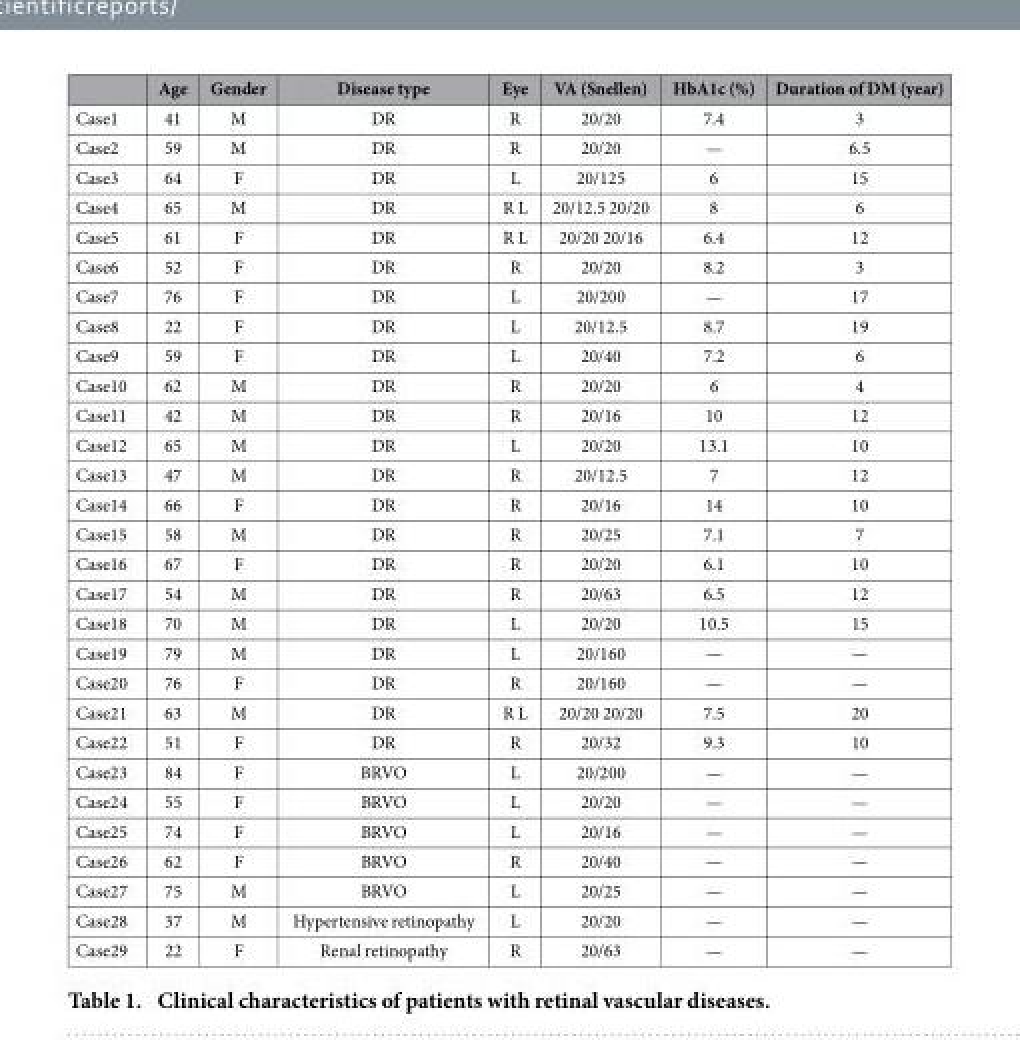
<table><thead><tr><td></td><td>Age</td><td>Gender</td><td>Disease type</td><td>Eye</td><td>VA (Snellen)</td><td>HbA1c (%)</td><td>Duration of DM (year)</td></tr></thead><tbody><tr><td>Case1</td><td>41</td><td>M</td><td>DR</td><td>R</td><td>20/20</td><td>7.4</td><td>3</td></tr><tr><td>Case2</td><td>59</td><td>M</td><td>DR</td><td>R</td><td>20/20</td><td>—</td><td>6.5</td></tr><tr><td>Case3</td><td>64</td><td>F</td><td>DR</td><td>L</td><td>20/125</td><td>6</td><td>15</td></tr><tr><td>Case4</td><td>65</td><td>M</td><td>DR</td><td>R L</td><td>20/12.5 20/20</td><td>8</td><td>6</td></tr><tr><td>Case5</td><td>61</td><td>F</td><td>DR</td><td>R L</td><td>20/20 20/16</td><td>6.4</td><td>12</td></tr><tr><td>Case6</td><td>52</td><td>F</td><td>DR</td><td>R</td><td>20/20</td><td>8.2</td><td>3</td></tr><tr><td>Case7</td><td>76</td><td>F</td><td>DR</td><td>L</td><td>20/200</td><td>—</td><td>17</td></tr><tr><td>Case8</td><td>22</td><td>F</td><td>DR</td><td>L</td><td>20/12.5</td><td>8.7</td><td>19</td></tr><tr><td>Case9</td><td>59</td><td>F</td><td>DR</td><td>L</td><td>20/40</td><td>7.2</td><td>6</td></tr><tr><td>Case10</td><td>62</td><td>M</td><td>DR</td><td>R</td><td>20/20</td><td>6</td><td>4</td></tr><tr><td>Case11</td><td>42</td><td>M</td><td>DR</td><td>R</td><td>20/16</td><td>10</td><td>12</td></tr><tr><td>Case12</td><td>65</td><td>M</td><td>DR</td><td>L</td><td>20/20</td><td>13.1</td><td>10</td></tr><tr><td>Case13</td><td>47</td><td>M</td><td>DR</td><td>R</td><td>20/12.5</td><td>7</td><td>12</td></tr><tr><td>Case14</td><td>66</td><td>F</td><td>DR</td><td>R</td><td>20/16</td><td>14</td><td>10</td></tr><tr><td>Case15</td><td>58</td><td>M</td><td>DR</td><td>R</td><td>20/25</td><td>7.1</td><td>7</td></tr><tr><td>Case16</td><td>67</td><td>F</td><td>DR</td><td>R</td><td>20/20</td><td>6.1</td><td>10</td></tr><tr><td>Case17</td><td>54</td><td>M</td><td>DR</td><td>R</td><td>20/63</td><td>6.5</td><td>12</td></tr><tr><td>Case18</td><td>70</td><td>M</td><td>DR</td><td>L</td><td>20/20</td><td>10.5</td><td>15</td></tr><tr><td>Case19</td><td>79</td><td>M</td><td>DR</td><td>L</td><td>20/160</td><td>—</td><td>—</td></tr><tr><td>Case20</td><td>76</td><td>F</td><td>DR</td><td>R</td><td>20/160</td><td>—</td><td>—</td></tr><tr><td>Case21</td><td>63</td><td>M</td><td>DR</td><td>R L</td><td>20/20 20/20</td><td>7.5</td><td>20</td></tr><tr><td>Case22</td><td>51</td><td>F</td><td>DR</td><td>R</td><td>20/32</td><td>9.3</td><td>10</td></tr><tr><td>Case23</td><td>84</td><td>F</td><td>BRVO</td><td>L</td><td>20/200</td><td>—</td><td>—</td></tr><tr><td>Case24</td><td>55</td><td>F</td><td>BRVO</td><td>L</td><td>20/20</td><td>—</td><td>—</td></tr><tr><td>Case25</td><td>74</td><td>F</td><td>BRVO</td><td>L</td><td>20/16</td><td>—</td><td>—</td></tr><tr><td>Case26</td><td>62</td><td>F</td><td>BRVO</td><td>R</td><td>20/40</td><td>—</td><td>—</td></tr><tr><td>Case27</td><td>75</td><td>M</td><td>BRVO</td><td>L</td><td>20/25</td><td>—</td><td>—</td></tr><tr><td>Case28</td><td>37</td><td>M</td><td>Hypertensive retinopathy</td><td>L</td><td>20/20</td><td>—</td><td>—</td></tr><tr><td>Case29</td><td>22</td><td>F</td><td>Renal retinopathy</td><td>R</td><td>20/63</td><td>—</td><td>—</td></tr></tbody></table>